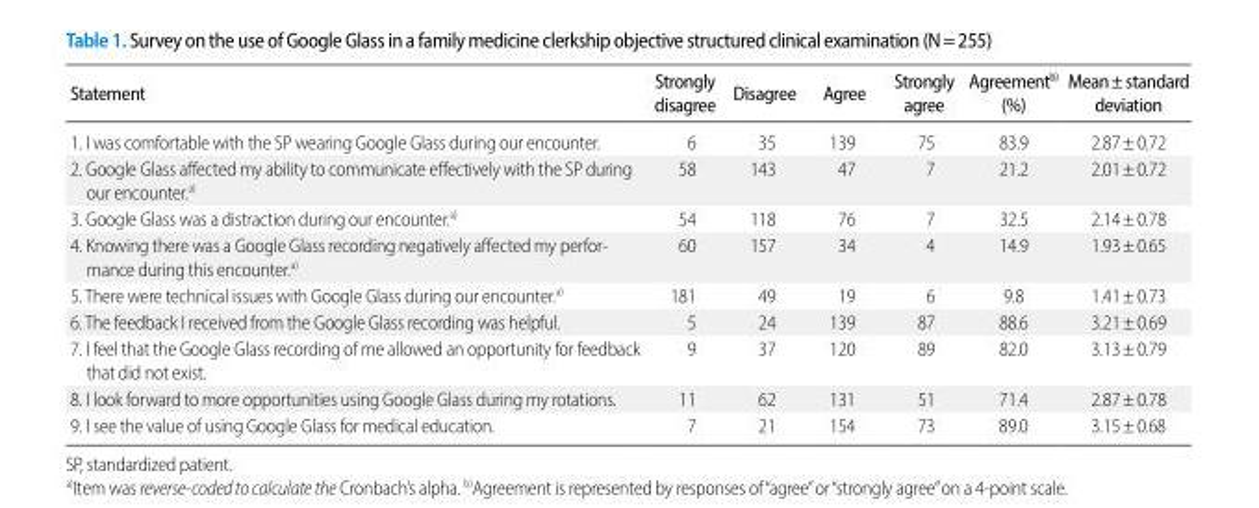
<table><thead><tr><td>Statement</td><td>Strongly disagree</td><td>Disagree</td><td>Agree</td><td>Strongly agree</td><td>Agreement<sup>b)</sup> (%)</td><td>Mean±standard deviation</td></tr></thead><tbody><tr><td>1. I was comfortable with the SP wearing Google Glass during our encounter.</td><td>6</td><td>35</td><td>139</td><td>75</td><td>83.9</td><td>2.87±0.72</td></tr><tr><td>2. Google Glass affected my ability to communicate effectively with the SP during our encounter.<sup>a)</sup></td><td>58</td><td>143</td><td>47</td><td>7</td><td>21.2</td><td>2.01±0.72</td></tr><tr><td>3. Google Glass was a distraction during our encounter.<sup>a)</sup></td><td>54</td><td>118</td><td>76</td><td>7</td><td>32.5</td><td>2.14±0.78</td></tr><tr><td>4. Knowing there was a Google Glass recording negatively affected my perfor- mance during this encounter.a)</td><td>60</td><td>157</td><td>34</td><td>4</td><td>14.9</td><td>1.93±0.65</td></tr><tr><td>5. There were technical issues with Google Glass during our encounter.<sup>a)</sup></td><td>181</td><td>49</td><td>19</td><td>6</td><td>9.8</td><td>1.41±0.73</td></tr><tr><td>6. The feedback I received from the Google Glass recording was helpful.</td><td>5</td><td>24</td><td>139</td><td>87</td><td>88.6</td><td>3.21±0.69</td></tr><tr><td>7. I feel that the Google Glass recording of me allowed an opportunity for feedback that did not exist.</td><td>9</td><td>37</td><td>120</td><td>89</td><td>82.0</td><td>3.13±0.79</td></tr><tr><td>8. I look forward to more opportunities using Google Glass during my rotations.</td><td>11</td><td>62</td><td>131</td><td>51</td><td>71.4</td><td>2.87±0.78</td></tr><tr><td>9. I see the value of using Google Glass for medical education.</td><td>7</td><td>21</td><td>154</td><td>73</td><td>89.0</td><td>3.15±0.68</td></tr></tbody></table>